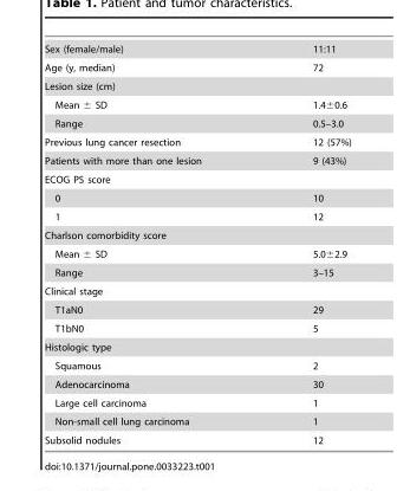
<table><tbody><tr><td>Sex (female/male)</td><td>11:11</td></tr><tr><td>Age (y, median)</td><td>72</td></tr><tr><td colspan="2">Lesion size (cm)</td></tr><tr><td>Mean ± SD</td><td>1.4±0.6</td></tr><tr><td>Range</td><td>0.5–3.0</td></tr><tr><td>Previous lung cancer resection</td><td>12 (57%)</td></tr><tr><td>Patients with more than one lesion</td><td>9 (43%)</td></tr><tr><td colspan="2">ECOG PS score</td></tr><tr><td>0</td><td>10</td></tr><tr><td>1</td><td>12</td></tr><tr><td colspan="2">Charlson comorbidity score</td></tr><tr><td>Mean ± SD</td><td>5.0±2.9</td></tr><tr><td>Range</td><td>3–15</td></tr><tr><td colspan="2">Clinical stage</td></tr><tr><td>T1aN0</td><td>29</td></tr><tr><td>T1bN0</td><td>5</td></tr><tr><td colspan="2">Histologic type</td></tr><tr><td>Squamous</td><td>2</td></tr><tr><td>Adenocarcinoma</td><td>30</td></tr><tr><td>Large cell carcinoma</td><td>1</td></tr><tr><td>Non-small cell lung carcinoma</td><td>1</td></tr><tr><td>Subsolid nodules</td><td>12</td></tr></tbody></table>